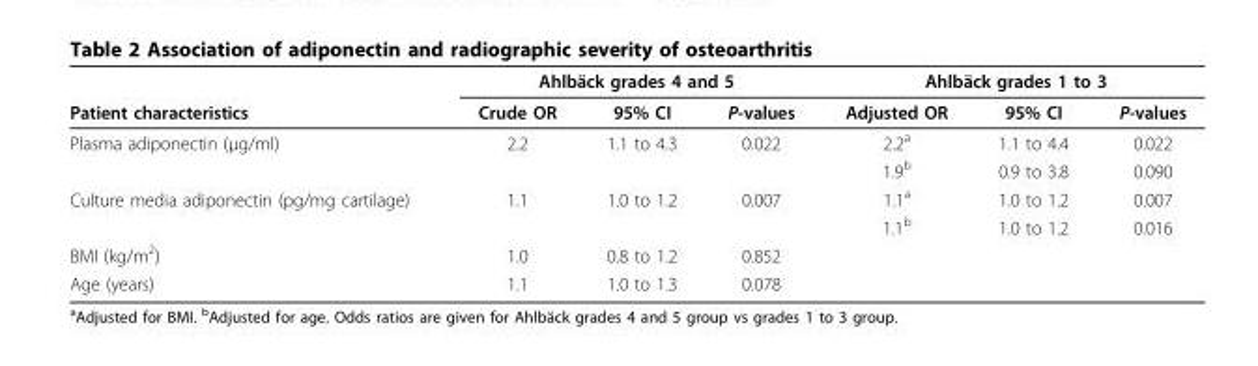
<table><thead><tr><td rowspan="2">Patient characteristics</td><td colspan="3">Ahlbäck grades 4 and 5</td><td colspan="3">Ahlbäck grades 1 to 3</td></tr><tr><td>Crude OR</td><td>95% CI</td><td>P-values</td><td>Adjusted OR</td><td>95% CI</td><td>P-values</td></tr></thead><tbody><tr><td rowspan="2">Plasma adiponectin (μg/ml)</td><td>2.2</td><td>1.1 to 4.3</td><td>0.022</td><td>2.2<sup>a</sup></td><td>1.1 to 4.4</td><td>0.022</td></tr><tr><td></td><td></td><td></td><td>1.9<sup>b</sup></td><td>0.9 to 3.8</td><td>0.090</td></tr><tr><td rowspan="2">Culture media adiponectin (pg/mg cartilage)</td><td>1.1</td><td>1.0 to 1.2</td><td>0.007</td><td>1.1<sup>a</sup></td><td>1.0 to 1.2</td><td>0.007</td></tr><tr><td></td><td></td><td></td><td>1.1<sup>b</sup></td><td>1.0 to 1.2</td><td>0.016</td></tr><tr><td>BMI (kg/m<sup>2</sup>)</td><td>1.0</td><td>0.8 to 1.2</td><td>0.852</td><td></td><td></td><td></td></tr><tr><td>Age (years)</td><td>1.1</td><td>1.0 to 1.3</td><td>0.078</td><td></td><td></td><td></td></tr></tbody></table>